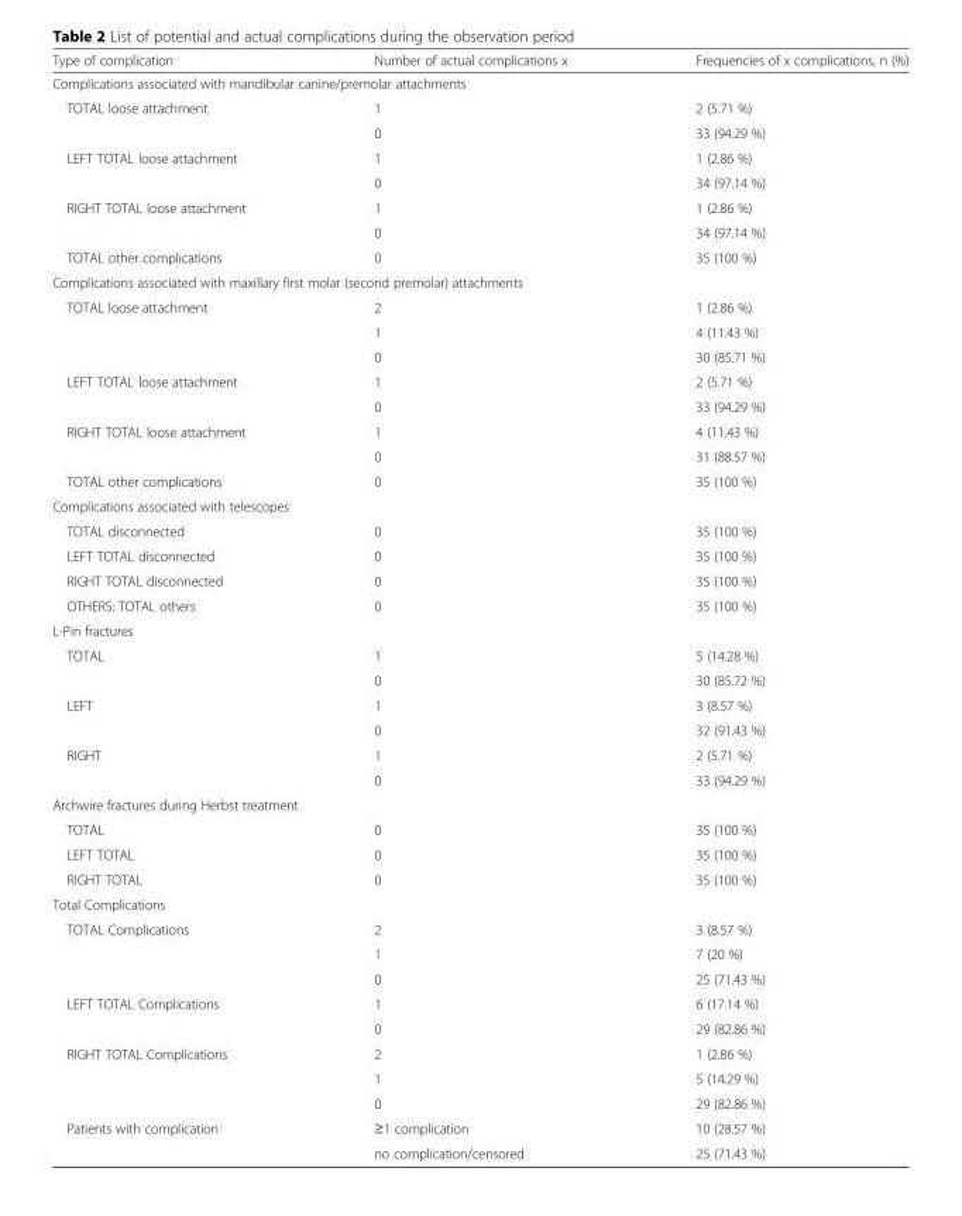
<table><thead><tr><td>Type of complication</td><td>Number of actual complications x</td><td>Frequencies of x complications, n (%)</td></tr></thead><tbody><tr><td colspan="3">Complications associated with mandibular canine/premolar attachments</td></tr><tr><td rowspan="2">TOTAL loose attachment</td><td>1</td><td>2 (5.71 %)</td></tr><tr><td>0</td><td>33 (94.29 %)</td></tr><tr><td rowspan="2">LEFT TOTAL loose attachment</td><td>1</td><td>1 (2.86 %)</td></tr><tr><td>0</td><td>34 (97.14 %)</td></tr><tr><td rowspan="2">RIGHT TOTAL loose attachment</td><td>1</td><td>1 (2.86 %)</td></tr><tr><td>0</td><td>34 (97.14 %)</td></tr><tr><td>TOTAL other complications</td><td>0</td><td>35 (100 %)</td></tr><tr><td colspan="3">Complications associated with maxillary first molar (second premolar) attachments</td></tr><tr><td rowspan="3">TOTAL loose attachment</td><td>2</td><td>1 (2.86 %)</td></tr><tr><td>1</td><td>4 (11.43 %)</td></tr><tr><td>0</td><td>30 (85.71 %)</td></tr><tr><td rowspan="2">LEFT TOTAL loose attachment</td><td>1</td><td>2 (5.71 %)</td></tr><tr><td>0</td><td>33 (94.29 %)</td></tr><tr><td rowspan="2">RIGHT TOTAL loose attachment</td><td>1</td><td>4 (11.43 %)</td></tr><tr><td>0</td><td>31 (88.57 %)</td></tr><tr><td>TOTAL other complications</td><td>0</td><td>35 (100 %)</td></tr><tr><td colspan="3">Complications associated with telescopes</td></tr><tr><td>TOTAL disconnected</td><td>0</td><td>35 (100 %)</td></tr><tr><td>LEFT TOTAL disconnected</td><td>0</td><td>35 (100 %)</td></tr><tr><td>RIGHT TOTAL disconnected</td><td>0</td><td>35 (100 %)</td></tr><tr><td>OTHERS: TOTAL others</td><td>0</td><td>35 (100 %)</td></tr><tr><td colspan="3">L-Pin fractures</td></tr><tr><td rowspan="2">TOTAL</td><td>1</td><td>5 (14.28 %)</td></tr><tr><td>0</td><td>30 (85.72 %)</td></tr><tr><td rowspan="2">LEFT</td><td>1</td><td>3 (8.57 %)</td></tr><tr><td>0</td><td>32 (91.43 %)</td></tr><tr><td rowspan="2">RIGHT</td><td>1</td><td>2 (5.71 %)</td></tr><tr><td>0</td><td>33 (94.29 %)</td></tr><tr><td colspan="3">Archwire fractures during Herbst treatment</td></tr><tr><td>TOTAL</td><td>0</td><td>35 (100 %)</td></tr><tr><td>LEFT TOTAL</td><td>0</td><td>35 (100 %)</td></tr><tr><td>RIGHT TOTAL</td><td>0</td><td>35 (100 %)</td></tr><tr><td colspan="3">Total Complications</td></tr><tr><td rowspan="3">TOTAL Complications</td><td>2</td><td>3 (8.57 %)</td></tr><tr><td>1</td><td>7 (20 %)</td></tr><tr><td>0</td><td>25 (71.43 %)</td></tr><tr><td rowspan="2">LEFT TOTAL Complications</td><td>1</td><td>6 (17.14 %)</td></tr><tr><td>0</td><td>29 (82.86 %)</td></tr><tr><td rowspan="3">RIGHT TOTAL Complications</td><td>2</td><td>1 (2.86 %)</td></tr><tr><td>1</td><td>5 (14.29 %)</td></tr><tr><td>0</td><td>29 (82.86 %)</td></tr><tr><td rowspan="2">Patients with complication</td><td>≥1 complication</td><td>10 (28.57 %)</td></tr><tr><td>no complication/censored</td><td>25 (71.43 %)</td></tr></tbody></table>